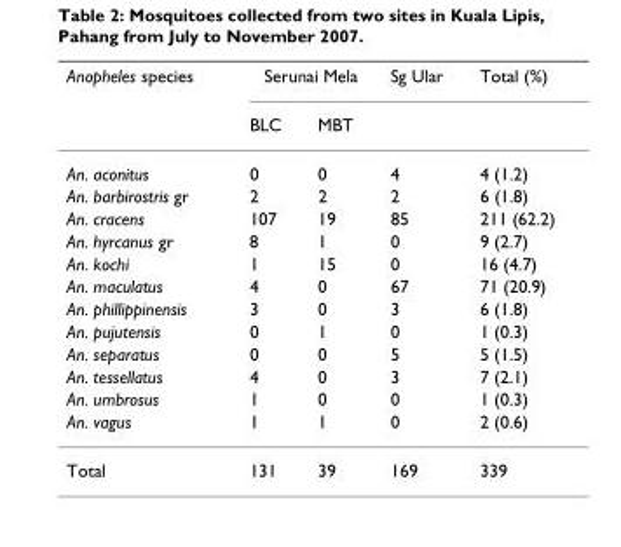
<table><thead><tr><td rowspan="2">Anopheles species</td><td colspan="2">Serunai Mela</td><td rowspan="2">Sg Ular</td><td rowspan="2">Total (%)</td></tr><tr><td>BLC</td><td>MBT</td></tr></thead><tbody><tr><td>An. aconitus</td><td>0</td><td>0</td><td>4</td><td>4 (1.2)</td></tr><tr><td>An. barbirostris gr</td><td>2</td><td>2</td><td>2</td><td>6 (1.8)</td></tr><tr><td>An. cracens</td><td>107</td><td>19</td><td>85</td><td>211 (62.2)</td></tr><tr><td>An. hyrcanus gr</td><td>8</td><td>1</td><td>0</td><td>9 (2.7)</td></tr><tr><td>An. kochi</td><td>1</td><td>15</td><td>0</td><td>16 (4.7)</td></tr><tr><td>An. maculatus</td><td>4</td><td>0</td><td>67</td><td>71 (20.9)</td></tr><tr><td>An. phillippinensis</td><td>3</td><td>0</td><td>3</td><td>6 (1.8)</td></tr><tr><td>An. pujutensis</td><td>0</td><td>1</td><td>0</td><td>1 (0.3)</td></tr><tr><td>An. separatus</td><td>0</td><td>0</td><td>5</td><td>5 (1.5)</td></tr><tr><td>An. tessellatus</td><td>4</td><td>0</td><td>3</td><td>7 (2.1)</td></tr><tr><td>An. umbrosus</td><td>1</td><td>0</td><td>0</td><td>1 (0.3)</td></tr><tr><td>An. vagus</td><td>1</td><td>1</td><td>0</td><td>2 (0.6)</td></tr><tr><td>Total</td><td>131</td><td>39</td><td>169</td><td>339</td></tr></tbody></table>